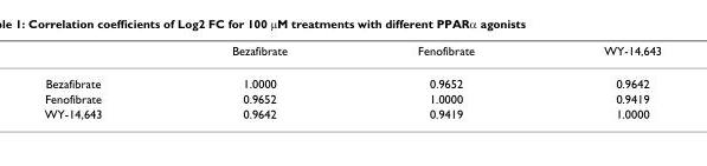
<table><thead><tr><td></td><td>Bezafibrate</td><td>Fenofibrate</td><td>WY-14,643</td></tr></thead><tbody><tr><td>Bezafibrate</td><td>1.0000</td><td>0.9652</td><td>0.9642</td></tr><tr><td>Fenofibrate</td><td>0.9652</td><td>1.0000</td><td>0.9419</td></tr><tr><td>WY-14,643</td><td>0.9642</td><td>0.9419</td><td>1.0000</td></tr></tbody></table>